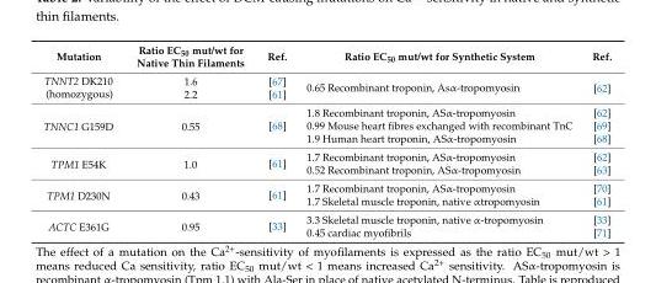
<table><thead><tr><td>Mutation</td><td>Ratio EC<sub>50</sub> mut/wt for Native Thin Filaments</td><td>Ref.</td><td>Ratio EC<sub>50</sub> mut/wt for Synthetic System</td><td>Ref.</td></tr></thead><tbody><tr><td rowspan="2">TNNT2 DK210 (homozygous)</td><td>1.6</td><td>[67]</td><td rowspan="2">0.65 Recombinant troponin, Asα-tropomyosin</td><td rowspan="2">[62]</td></tr><tr><td>2.2</td><td>[61]</td></tr><tr><td rowspan="3">TNNC1 G159D</td><td rowspan="3">0.55</td><td rowspan="3">[68]</td><td>1.8 Recombinant troponin, ASα-tropomyosin</td><td>[62]</td></tr><tr><td>0.99 Mouse heart fibres exchanged with recombinant TnC</td><td>[69]</td></tr><tr><td>1.9 Human heart troponin, ASα-tropomyosin</td><td>[68]</td></tr><tr><td rowspan="2">TPM1 E54K</td><td rowspan="2">1.0</td><td rowspan="2">[61]</td><td>1.7 Recombinant troponin, ASα-tropomyosin</td><td>[62]</td></tr><tr><td>0.52 Recombinant troponin, ASα-tropomyosin</td><td>[63]</td></tr><tr><td rowspan="2">TPM1 D230N</td><td rowspan="2">0.43</td><td rowspan="2">[61]</td><td>1.7 Recombinant troponin, ASα-tropomyosin</td><td>[70]</td></tr><tr><td>1.7 Skeletal muscle troponin, native αtropomyosin</td><td>[61]</td></tr><tr><td rowspan="2">ACTC E361G</td><td rowspan="2">0.95</td><td rowspan="2">[33]</td><td>3.3 Skeletal muscle troponin, native α-tropomyosin</td><td>[33]</td></tr><tr><td>0.45 cardiac myofibrils</td><td>[71]</td></tr></tbody></table>